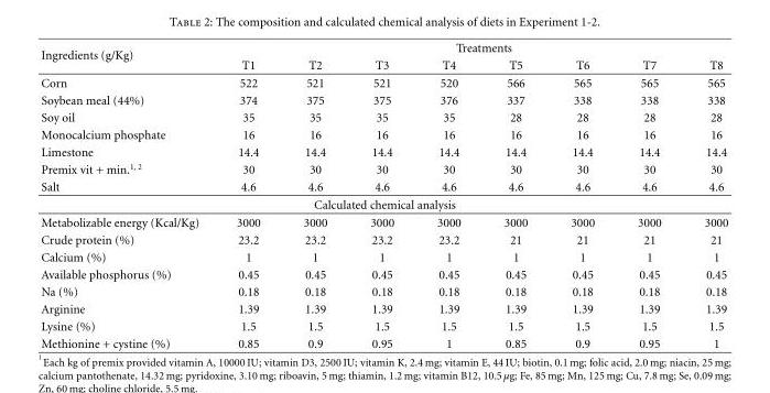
<table><thead><tr><td rowspan="2">Ingredients (g/Kg)</td><td colspan="8">Treatments</td></tr><tr><td>T1</td><td>T2</td><td>T3</td><td>T4</td><td>T5</td><td>T6</td><td>T7</td><td>T8</td></tr></thead><tbody><tr><td>Corn</td><td>522</td><td>521</td><td>521</td><td>520</td><td>566</td><td>565</td><td>565</td><td>565</td></tr><tr><td>Soybean meal (44%)</td><td>374</td><td>375</td><td>375</td><td>376</td><td>337</td><td>338</td><td>338</td><td>338</td></tr><tr><td>Soy oil</td><td>35</td><td>35</td><td>35</td><td>35</td><td>28</td><td>28</td><td>28</td><td>28</td></tr><tr><td>Monocalcium phosphate</td><td>16</td><td>16</td><td>16</td><td>16</td><td>16</td><td>16</td><td>16</td><td>16</td></tr><tr><td>Limestone</td><td>14.4</td><td>14.4</td><td>14.4</td><td>14.4</td><td>14.4</td><td>14.4</td><td>14.4</td><td>14.4</td></tr><tr><td>Premix vit + min.<sup>1, 2</sup></td><td>30</td><td>30</td><td>30</td><td>30</td><td>30</td><td>30</td><td>30</td><td>30</td></tr><tr><td>Salt</td><td>4.6</td><td>4.6</td><td>4.6</td><td>4.6</td><td>4.6</td><td>4.6</td><td>4.6</td><td>4.6</td></tr><tr><td colspan="9">Calculated chemical analysis</td></tr><tr><td>Metabolizable energy (Kcal/Kg)</td><td>3000</td><td>3000</td><td>3000</td><td>3000</td><td>3000</td><td>3000</td><td>3000</td><td>3000</td></tr><tr><td>Crude protein (%)</td><td>23.2</td><td>23.2</td><td>23.2</td><td>23.2</td><td>21</td><td>21</td><td>21</td><td>21</td></tr><tr><td>Calcium (%)</td><td>1</td><td>1</td><td>1</td><td>1</td><td>1</td><td>1</td><td>1</td><td>1</td></tr><tr><td>Available phosphorus (%)</td><td>0.45</td><td>0.45</td><td>0.45</td><td>0.45</td><td>0.45</td><td>0.45</td><td>0.45</td><td>0.45</td></tr><tr><td>Na (%)</td><td>0.18</td><td>0.18</td><td>0.18</td><td>0.18</td><td>0.18</td><td>0.18</td><td>0.18</td><td>0.18</td></tr><tr><td>Arginine</td><td>1.39</td><td>1.39</td><td>1.39</td><td>1.39</td><td>1.39</td><td>1.39</td><td>1.39</td><td>1.39</td></tr><tr><td>Lysine (%)</td><td>1.5</td><td>1.5</td><td>1.5</td><td>1.5</td><td>1.5</td><td>1.5</td><td>1.5</td><td>1.5</td></tr><tr><td>Methionine + cystine (%)</td><td>0.85</td><td>0.9</td><td>0.95</td><td>1</td><td>0.85</td><td>0.9</td><td>0.95</td><td>1</td></tr></tbody></table>